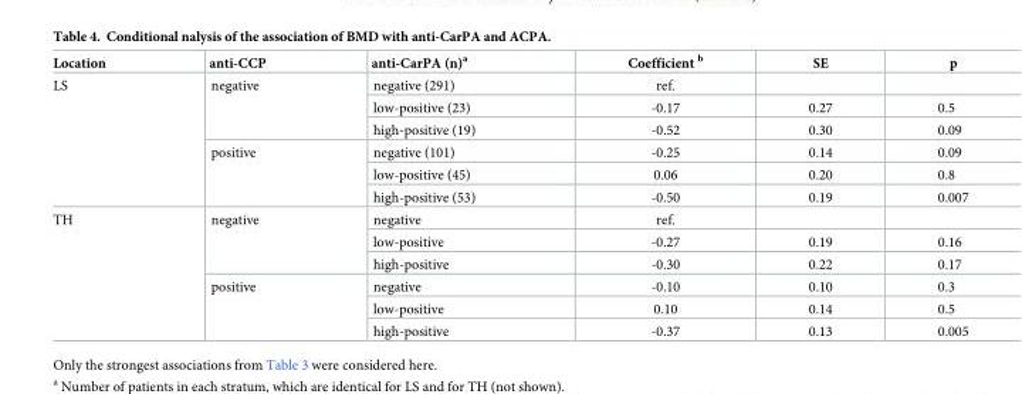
<table><thead><tr><td>Location</td><td>anti-CCP</td><td>anti-CarPA (n)<sup>a</sup></td><td>Coefficient <sup>b</sup></td><td>SE</td><td>p</td></tr></thead><tbody><tr><td rowspan="6">LS</td><td rowspan="3">negative</td><td>negative (291)</td><td>ref.</td><td></td><td></td></tr><tr><td>low-positive (23)</td><td>-0.17</td><td>0.27</td><td>0.5</td></tr><tr><td>high-positive (19)</td><td>-0.52</td><td>0.30</td><td>0.09</td></tr><tr><td rowspan="3">positive</td><td>negative (101)</td><td>-0.25</td><td>0.14</td><td>0.09</td></tr><tr><td>low-positive (45)</td><td>0.06</td><td>0.20</td><td>0.8</td></tr><tr><td>high-positive (53)</td><td>-0.50</td><td>0.19</td><td>0.007</td></tr><tr><td rowspan="6">TH</td><td rowspan="3">negative</td><td>negative</td><td>ref.</td><td></td><td></td></tr><tr><td>low-positive</td><td>-0.27</td><td>0.19</td><td>0.16</td></tr><tr><td>high-positive</td><td>-0.30</td><td>0.22</td><td>0.17</td></tr><tr><td rowspan="3">positive</td><td>negative</td><td>-0.10</td><td>0.10</td><td>0.3</td></tr><tr><td>low-positive</td><td>0.10</td><td>0.14</td><td>0.5</td></tr><tr><td>high-positive</td><td>-0.37</td><td>0.13</td><td>0.005</td></tr></tbody></table>